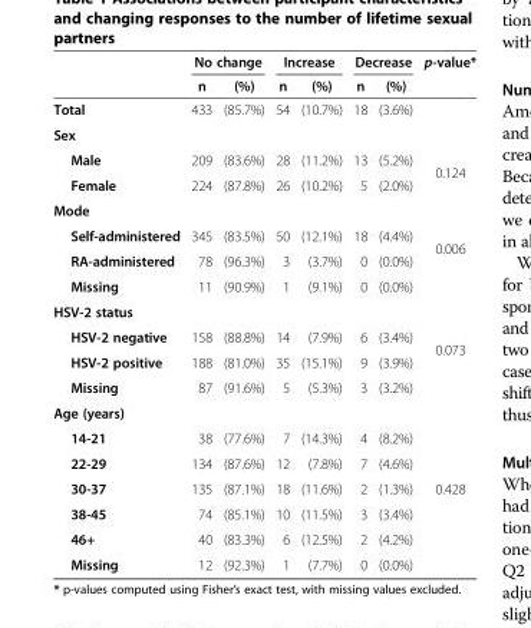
<table><thead><tr><td rowspan="2"></td><td colspan="2">No change</td><td colspan="2">Increase</td><td colspan="2">Decrease</td><td rowspan="2">p-value*</td></tr><tr><td>n</td><td>(%)</td><td>n</td><td>(%)</td><td>n</td><td>(%)</td></tr></thead><tbody><tr><td>Total</td><td>433</td><td>(85.7%)</td><td>54</td><td>(10.7%)</td><td>18</td><td>(3.6%)</td><td></td></tr><tr><td colspan="8">Sex</td></tr><tr><td>Male</td><td>209</td><td>(83.6%)</td><td>28</td><td>(11.2%)</td><td>13</td><td>(5.2%)</td><td rowspan="2">0.124</td></tr><tr><td>Female</td><td>224</td><td>(87.8%)</td><td>26</td><td>(10.2%)</td><td>5</td><td>(2.0%)</td></tr><tr><td colspan="8">Mode</td></tr><tr><td>Self-administered</td><td>345</td><td>(83.5%)</td><td>50</td><td>(12.1%)</td><td>18</td><td>(4.4%)</td><td rowspan="2">0.006</td></tr><tr><td>RA-administered</td><td>78</td><td>(96.3%)</td><td>3</td><td>(3.7%)</td><td>0</td><td>(0.0%)</td></tr><tr><td>Missing</td><td>11</td><td>(90.9%)</td><td>1</td><td>(9.1%)</td><td>0</td><td>(0.0%)</td><td></td></tr><tr><td colspan="8">HSV-2 status</td></tr><tr><td>HSV-2 negative</td><td>158</td><td>(88.8%)</td><td>14</td><td>(7.9%)</td><td>6</td><td>(3.4%)</td><td rowspan="2">0.073</td></tr><tr><td>HSV-2 positive</td><td>188</td><td>(81.0%)</td><td>35</td><td>(15.1%)</td><td>9</td><td>(3.9%)</td></tr><tr><td>Missing</td><td>87</td><td>(91.6%)</td><td>5</td><td>(5.3%)</td><td>3</td><td>(3.2%)</td><td></td></tr><tr><td colspan="8">Age (years)</td></tr><tr><td>14-21</td><td>38</td><td>(77.6%)</td><td>7</td><td>(14.3%)</td><td>4</td><td>(8.2%)</td><td rowspan="5">0.428</td></tr><tr><td>22-29</td><td>134</td><td>(87.6%)</td><td>12</td><td>(7.8%)</td><td>7</td><td>(4.6%)</td></tr><tr><td>30-37</td><td>135</td><td>(87.1%)</td><td>18</td><td>(11.6%)</td><td>2</td><td>(1.3%)</td></tr><tr><td>38-45</td><td>74</td><td>(85.1%)</td><td>10</td><td>(11.5%)</td><td>3</td><td>(3.4%)</td></tr><tr><td>46+</td><td>40</td><td>(83.3%)</td><td>6</td><td>(12.5%)</td><td>2</td><td>(4.2%)</td></tr><tr><td>Missing</td><td>12</td><td>(92.3%)</td><td>1</td><td>(7.7%)</td><td>0</td><td>(0.0%)</td><td></td></tr></tbody></table>